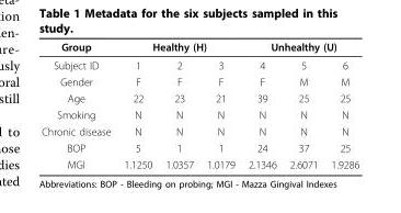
<table><thead><tr><td rowspan="2">Group Subject ID</td><td colspan="3">Healthy (H)</td><td colspan="3">Unhealthy (U)</td></tr><tr><td>1</td><td>2</td><td>3</td><td>4</td><td>5</td><td>6</td></tr></thead><tbody><tr><td>Gender</td><td>F</td><td>F</td><td>F</td><td>F</td><td>M</td><td>M</td></tr><tr><td>Age</td><td>22</td><td>23</td><td>21</td><td>39</td><td>25</td><td>25</td></tr><tr><td>Smoking</td><td>N</td><td>N</td><td>N</td><td>N</td><td>N</td><td>N</td></tr><tr><td>Chronic disease</td><td>N</td><td>N</td><td>N</td><td>N</td><td>N</td><td>N</td></tr><tr><td>BOP</td><td>5</td><td>1</td><td>1</td><td>24</td><td>37</td><td>25</td></tr><tr><td>MGI</td><td>1.1250</td><td>1.0357</td><td>1.0179</td><td>2.1346</td><td>2.6071</td><td>1.9286</td></tr></tbody></table>